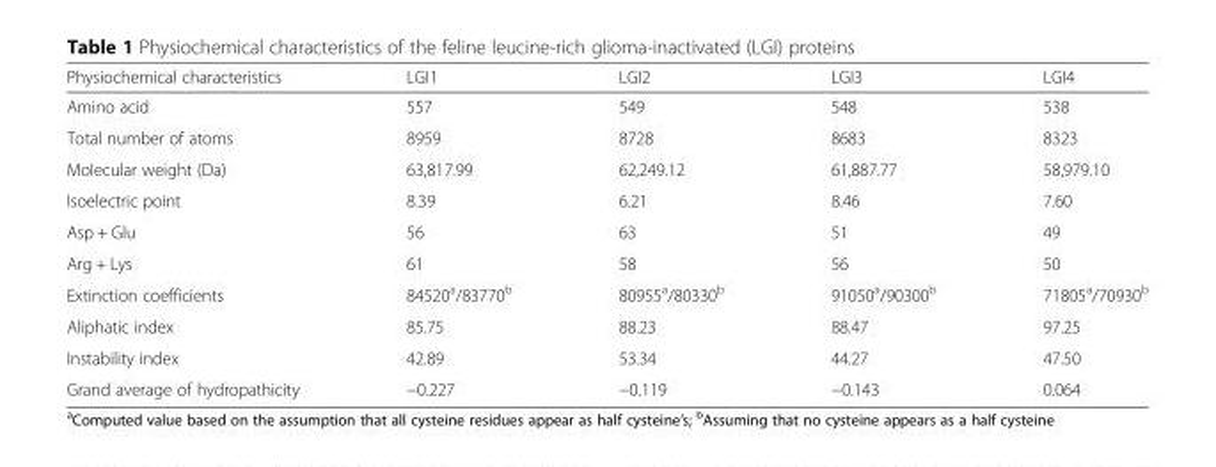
<table><thead><tr><td>Physiochemical characteristics</td><td>LGI1</td><td>LGI2</td><td>LGI3</td><td>LGI4</td></tr></thead><tbody><tr><td>Amino acid</td><td>557</td><td>549</td><td>548</td><td>538</td></tr><tr><td>Total number of atoms</td><td>8959</td><td>8728</td><td>8683</td><td>8323</td></tr><tr><td>Molecular weight (Da)</td><td>63,817.99</td><td>62,249.12</td><td>61,887.77</td><td>58,979.10</td></tr><tr><td>Isoelectric point</td><td>8.39</td><td>6.21</td><td>8.46</td><td>7.60</td></tr><tr><td>Asp + Glu</td><td>56</td><td>63</td><td>51</td><td>49</td></tr><tr><td>Arg + Lys</td><td>61</td><td>58</td><td>56</td><td>50</td></tr><tr><td>Extinction coefficients</td><td>84520<sup>a</sup>/83770<sup>b</sup></td><td>80955<sup>a</sup>/80330<sup>b</sup></td><td>91050<sup>a</sup>/90300<sup>b</sup></td><td>71805<sup>a</sup>/70930<sup>b</sup></td></tr><tr><td>Aliphatic index</td><td>85.75</td><td>88.23</td><td>88.47</td><td>97.25</td></tr><tr><td>Instability index</td><td>42.89</td><td>53.34</td><td>44.27</td><td>47.50</td></tr><tr><td>Grand average of hydropathicity</td><td>−0.227</td><td>−0.119</td><td>−0.143</td><td>0.064</td></tr></tbody></table>